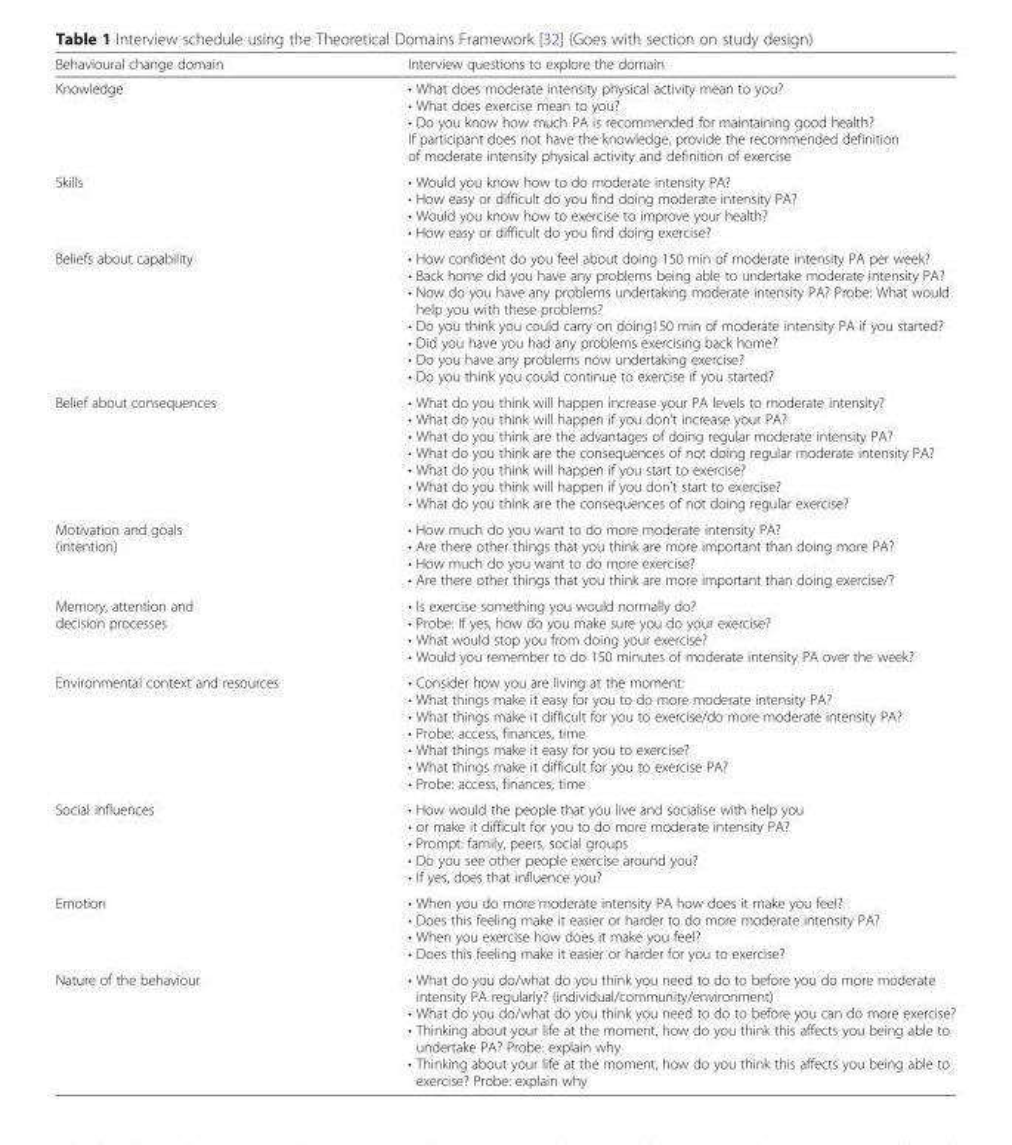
<table><thead><tr><td>Behavioural change domain</td><td>Interview questions to explore the domain</td></tr></thead><tbody><tr><td>Knowledge</td><td>• What does moderate intensity physical activity mean to you? • What does exercise mean to you? • Do you know how much PA is recommended for maintaining good health? If participant does not have the knowledge, provide the recommended definition of moderate intensity physical activity and definition of exercise</td></tr><tr><td>Skills</td><td>• Would you know how to do moderate intensity PA? • How easy or difficult do you find doing moderate intensity PA? • Would you know how to exercise to improve your health? • How easy or difficult do you find doing exercise?</td></tr><tr><td>Beliefs about capability</td><td>• How confident do you feel about doing 150 min of moderate intensity PA per week? • Back home did you have any problems being able to undertake moderate intensity PA? • Now do you have any problems undertaking moderate intensity PA? Probe: What would help you with these problems? • Do you think you could carry on doing150 min of moderate intensity PA if you started? • Did you have you had any problems exercising back home? • Do you have any problems now undertaking exercise? • Do you think you could continue to exercise if you started?</td></tr><tr><td>Belief about consequences</td><td>• What do you think will happen increase your PA levels to moderate intensity? • What do you think will happen if you don’t increase your PA? • What do you think are the advantages of doing regular moderate intensity PA? • What do you think are the consequences of not doing regular moderate intensity PA? • What do you think will happen if you start to exercise? • What do you think will happen if you don’t start to exercise? • What do you think are the consequences of not doing regular exercise?</td></tr><tr><td>Motivation and goals (intention)</td><td>• How much do you want to do more moderate intensity PA? • Are there other things that you think are more important than doing more PA? • How much do you want to do more exercise? • Are there other things that you think are more important than doing exercise/?</td></tr><tr><td>Memory, attention and decision processes</td><td>• Is exercise something you would normally do? • Probe: If yes, how do you make sure you do your exercise? • What would stop you from doing your exercise? • Would you remember to do 150 minutes of moderate intensity PA over the week?</td></tr><tr><td>Environmental context and resources</td><td>• Consider how you are living at the moment: • What things make it easy for you to do more moderate intensity PA? • What things make it difficult for you to exercise/do more moderate intensity PA? • Probe: access, finances, time • What things make it easy for you to exercise? • What things make it difficult for you to exercise PA? • Probe: access, finances, time</td></tr><tr><td>Social influences</td><td>• How would the people that you live and socialise with help you • or make it difficult for you to do more moderate intensity PA? • Prompt: family, peers, social groups • Do you see other people exercise around you? • If yes, does that influence you?</td></tr><tr><td>Emotion</td><td>• When you do more moderate intensity PA how does it make you feel? • Does this feeling make it easier or harder to do more moderate intensity PA? • When you exercise how does it make you feel? • Does this feeling make it easier or harder for you to exercise?</td></tr><tr><td>Nature of the behaviour</td><td>• What do you do/what do you think you need to do to before you do more moderate intensity PA regularly? (individual/community/environment) • What do you do/what do you think you need to do to before you can do more exercise? • Thinking about your life at the moment, how do you think this affects you being able to undertake PA? Probe: explain why • Thinking about your life at the moment, how do you think this affects you being able to exercise? Probe: explain why</td></tr></tbody></table>